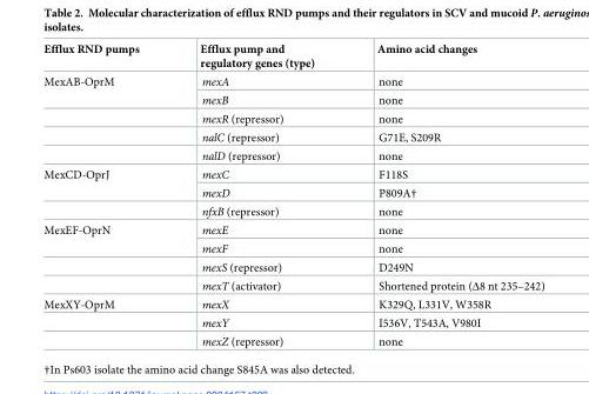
<table><thead><tr><td>Efflux RND pumps</td><td>Efflux pump and regulatory genes (type)</td><td>Amino acid changes</td></tr></thead><tbody><tr><td rowspan="5">MexAB-OprM</td><td>mexA</td><td>none</td></tr><tr><td>mexB</td><td>none</td></tr><tr><td>mexR (repressor)</td><td>none</td></tr><tr><td>nalC (repressor)</td><td>G71E, S209R</td></tr><tr><td>nalD (repressor)</td><td>none</td></tr><tr><td rowspan="3">MexCD-OprJ</td><td>mexC</td><td>F118S</td></tr><tr><td>mexD</td><td>P809A†</td></tr><tr><td>nfxB (repressor)</td><td>none</td></tr><tr><td rowspan="4">MexEF-OprN</td><td>mexE</td><td>none</td></tr><tr><td>mexF</td><td>none</td></tr><tr><td>mexS (repressor)</td><td>D249N</td></tr><tr><td>mexT (activator)</td><td>Shortened protein (Δ8 nt 235–242)</td></tr><tr><td rowspan="3">MexXY-OprM</td><td>mexX</td><td>K329Q, L331V, W358R</td></tr><tr><td>mexY</td><td>I536V, T543A, V980I</td></tr><tr><td>mexZ (repressor)</td><td>none</td></tr></tbody></table>